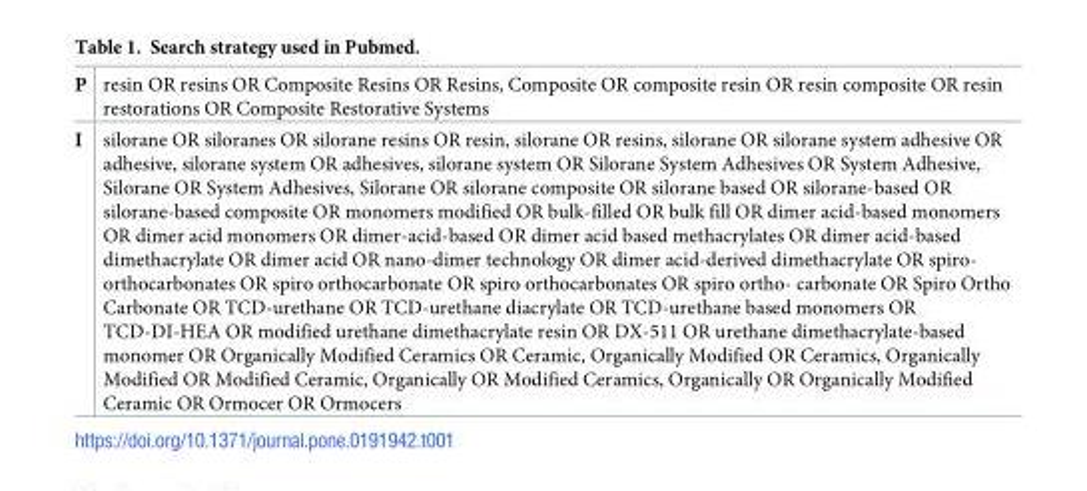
<table><tbody><tr><td>P</td><td>resin OR resins OR Composite Resins OR Resins, Composite OR composite resin OR resin composite OR resin restorations OR Composite Restorative Systems</td></tr><tr><td>I</td><td>silorane OR siloranes OR silorane resins OR resin, silorane OR resins, silorane OR silorane system adhesive OR adhesive, silorane system OR adhesives, silorane system OR Silorane System Adhesives OR System Adhesive, Silorane OR System Adhesives, Silorane OR silorane composite OR silorane based OR silorane-based OR silorane-based composite OR monomers modified OR bulk-filled OR bulk fill OR dimer acid-based monomers OR dimer acid monomers OR dimer-acid-based OR dimer acid based methacrylates OR dimer acid-based dimethacrylate OR dimer acid OR nano-dimer technology OR dimer acid-derived dimethacrylate OR spiro- orthocarbonates OR spiro orthocarbonate OR spiro orthocarbonates OR spiro ortho- carbonate OR Spiro Ortho Carbonate OR TCD-urethane OR TCD-urethane diacrylate OR TCD-urethane based monomers OR TCD-DI-HEA OR modified urethane dimethacrylate resin OR DX-511 OR urethane dimethacrylate-based monomer OR Organically Modified Ceramics OR Ceramic, Organically Modified OR Ceramics, Organically Modified OR Modified Ceramic, Organically OR Modified Ceramics, Organically OR Organically Modified Ceramic OR Ormocer OR Ormocers</td></tr></tbody></table>